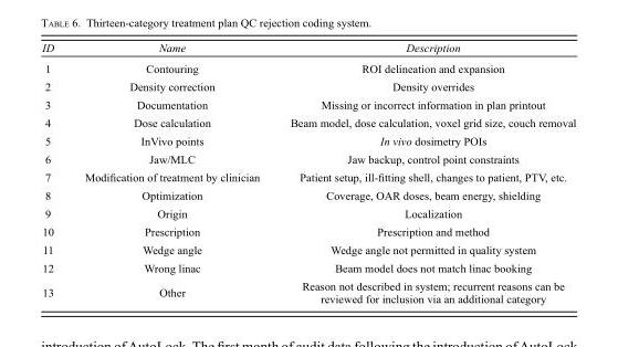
<table><thead><tr><td>ID</td><td>Name</td><td>Description</td></tr></thead><tbody><tr><td>1</td><td>Contouring</td><td>ROI delineation and expansion</td></tr><tr><td>2</td><td>Density correction</td><td>Density overrides</td></tr><tr><td>3</td><td>Documentation</td><td>Missing or incorrect information in plan printout</td></tr><tr><td>4</td><td>Dose calculation</td><td>Beam model, dose calculation, voxel grid size, couch removal</td></tr><tr><td>5</td><td>InVivo points</td><td>In vivo dosimetry POIs</td></tr><tr><td>6</td><td>Jaw/MLC</td><td>Jaw backup, control point constraints</td></tr><tr><td>7</td><td>Modification of treatment by clinician</td><td>Patient setup, ill-fitting shell, changes to patient, PTV, etc.</td></tr><tr><td>8</td><td>Optimization</td><td>Coverage, OAR doses, beam energy, shielding</td></tr><tr><td>9</td><td>Origin</td><td>Localization</td></tr><tr><td>10</td><td>Prescription</td><td>Prescription and method</td></tr><tr><td>11</td><td>Wedge angle</td><td>Wedge angle not permitted in quality system</td></tr><tr><td>12</td><td>Wrong linac</td><td>Beam model does not match linac booking</td></tr><tr><td>13</td><td>Other</td><td>Reason not described in system; recurrent reasons can be reviewed for inclusion via an additional category</td></tr></tbody></table>